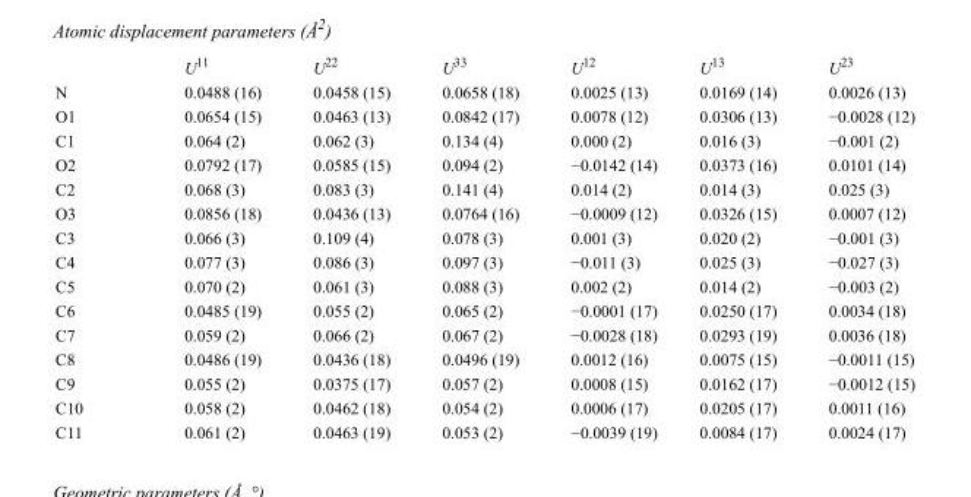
<table><thead><tr><td></td><td>U<sup>11</sup></td><td>U<sup>22</sup></td><td>U<sup>33</sup></td><td>U<sup>12</sup></td><td>U<sup>13</sup></td><td>U<sup>23</sup></td></tr></thead><tbody><tr><td>N</td><td>0.0488 (16)</td><td>0.0458 (15)</td><td>0.0658 (18)</td><td>0.0025 (13)</td><td>0.0169 (14)</td><td>0.0026 (13)</td></tr><tr><td>O1</td><td>0.0654 (15)</td><td>0.0463 (13)</td><td>0.0842 (17)</td><td>0.0078 (12)</td><td>0.0306 (13)</td><td>−0.0028 (12)</td></tr><tr><td>C1</td><td>0.064 (2)</td><td>0.062 (3)</td><td>0.134 (4)</td><td>0.000 (2)</td><td>0.016 (3)</td><td>−0.001 (2)</td></tr><tr><td>O2</td><td>0.0792 (17)</td><td>0.0585 (15)</td><td>0.094 (2)</td><td>−0.0142 (14)</td><td>0.0373 (16)</td><td>0.0101 (14)</td></tr><tr><td>C2</td><td>0.068 (3)</td><td>0.083 (3)</td><td>0.141 (4)</td><td>0.014 (2)</td><td>0.014 (3)</td><td>0.025 (3)</td></tr><tr><td>O3</td><td>0.0856 (18)</td><td>0.0436 (13)</td><td>0.0764 (16)</td><td>−0.0009 (12)</td><td>0.0326 (15)</td><td>0.0007 (12)</td></tr><tr><td>C3</td><td>0.066 (3)</td><td>0.109 (4)</td><td>0.078 (3)</td><td>0.001 (3)</td><td>0.020 (2)</td><td>−0.001 (3)</td></tr><tr><td>C4</td><td>0.077 (3)</td><td>0.086 (3)</td><td>0.097 (3)</td><td>−0.011 (3)</td><td>0.025 (3)</td><td>−0.027 (3)</td></tr><tr><td>C5</td><td>0.070 (2)</td><td>0.061 (3)</td><td>0.088 (3)</td><td>0.002 (2)</td><td>0.014 (2)</td><td>−0.003 (2)</td></tr><tr><td>C6</td><td>0.0485 (19)</td><td>0.055 (2)</td><td>0.065 (2)</td><td>−0.0001 (17)</td><td>0.0250 (17)</td><td>0.0034 (18)</td></tr><tr><td>C7</td><td>0.059 (2)</td><td>0.066 (2)</td><td>0.067 (2)</td><td>−0.0028 (18)</td><td>0.0293 (19)</td><td>0.0036 (18)</td></tr><tr><td>C8</td><td>0.0486 (19)</td><td>0.0436 (18)</td><td>0.0496 (19)</td><td>0.0012 (16)</td><td>0.0075 (15)</td><td>−0.0011 (15)</td></tr><tr><td>C9</td><td>0.055 (2)</td><td>0.0375 (17)</td><td>0.057 (2)</td><td>0.0008 (15)</td><td>0.0162 (17)</td><td>−0.0012 (15)</td></tr><tr><td>C10</td><td>0.058 (2)</td><td>0.0462 (18)</td><td>0.054 (2)</td><td>0.0006 (17)</td><td>0.0205 (17)</td><td>0.0011 (16)</td></tr><tr><td>C11</td><td>0.061 (2)</td><td>0.0463 (19)</td><td>0.053 (2)</td><td>−0.0039 (19)</td><td>0.0084 (17)</td><td>0.0024 (17)</td></tr></tbody></table>